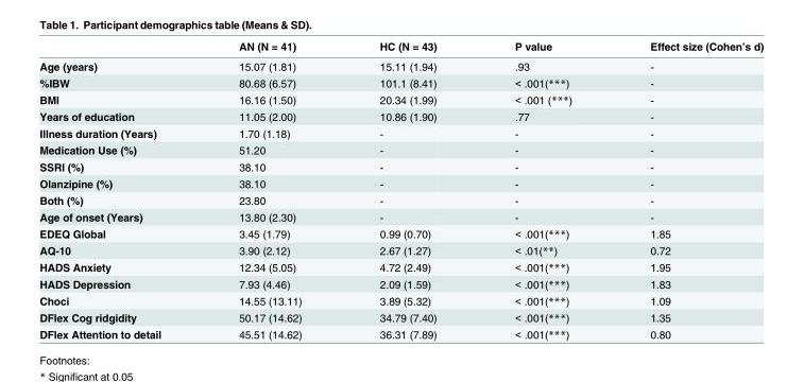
<table><thead><tr><td></td><td>AN (N = 41)</td><td>HC (N = 43)</td><td>P value</td><td>Effect size (Cohen’s d)</td></tr></thead><tbody><tr><td>Age (years)</td><td>15.07 (1.81)</td><td>15.11 (1.94)</td><td>.93</td><td>-</td></tr><tr><td>%IBW</td><td>80.68 (6.57)</td><td>101.1 (8.41)</td><td>&lt; .001(***)</td><td>-</td></tr><tr><td>BMI</td><td>16.16 (1.50)</td><td>20.34 (1.99)</td><td>&lt; .001 (***)</td><td>-</td></tr><tr><td>Years of education</td><td>11.05 (2.00)</td><td>10.86 (1.90)</td><td>.77</td><td>-</td></tr><tr><td>Illness duration (Years)</td><td>1.70 (1.18)</td><td>-</td><td>-</td><td>-</td></tr><tr><td>Medication Use (%)</td><td>51.20</td><td>-</td><td>-</td><td>-</td></tr><tr><td>SSRI (%)</td><td>38.10</td><td>-</td><td>-</td><td>-</td></tr><tr><td>Olanzipine (%)</td><td>38.10</td><td>-</td><td>-</td><td>-</td></tr><tr><td>Both (%)</td><td>23.80</td><td>-</td><td>-</td><td>-</td></tr><tr><td>Age of onset (Years)</td><td>13.80 (2.30)</td><td>-</td><td>-</td><td>-</td></tr><tr><td>EDEQ Global</td><td>3.45 (1.79)</td><td>0.99 (0.70)</td><td>&lt; .001(***)</td><td>1.85</td></tr><tr><td>AQ-10</td><td>3.90 (2.12)</td><td>2.67 (1.27)</td><td>&lt; .01(**)</td><td>0.72</td></tr><tr><td>HADS Anxiety</td><td>12.34 (5.05)</td><td>4.72 (2.49)</td><td>&lt; .001(***)</td><td>1.95</td></tr><tr><td>HADS Depression</td><td>7.93 (4.46)</td><td>2.09 (1.59)</td><td>&lt; .001(***)</td><td>1.83</td></tr><tr><td>Choci</td><td>14.55 (13.11)</td><td>3.89 (5.32)</td><td>&lt; .001(***)</td><td>1.09</td></tr><tr><td>DFlex Cog ridgidity</td><td>50.17 (14.62)</td><td>34.79 (7.40)</td><td>&lt; .001(***)</td><td>1.35</td></tr><tr><td>DFlex Attention to detail</td><td>45.51 (14.62)</td><td>36.31 (7.89)</td><td>&lt; .001(***)</td><td>0.80</td></tr></tbody></table>